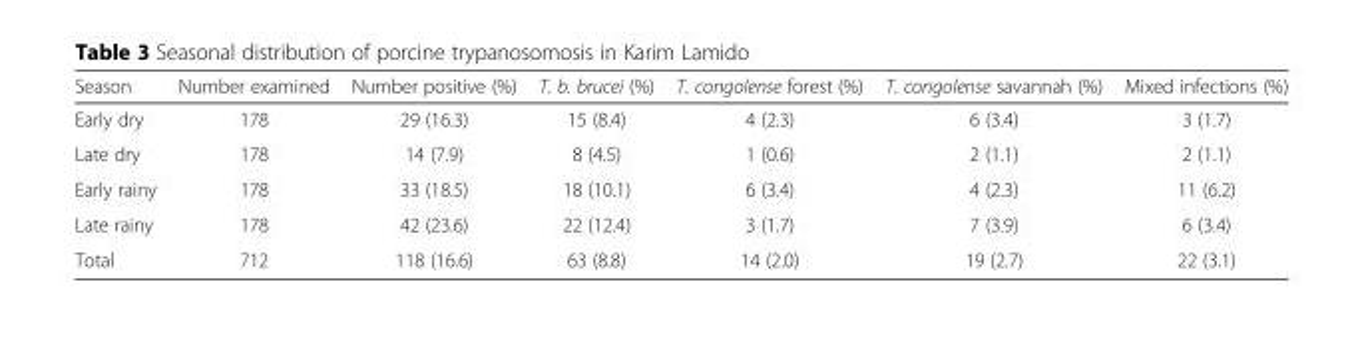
<table><thead><tr><td>Season</td><td>Number examined</td><td>Number positive (%)</td><td>T. b. brucei (%)</td><td>T. congolense forest (%)</td><td>T. congolense savannah (%)</td><td>Mixed infections (%)</td></tr></thead><tbody><tr><td>Early dry</td><td>178</td><td>29 (16.3)</td><td>15 (8.4)</td><td>4 (2.3)</td><td>6 (3.4)</td><td>3 (1.7)</td></tr><tr><td>Late dry</td><td>178</td><td>14 (7.9)</td><td>8 (4.5)</td><td>1 (0.6)</td><td>2 (1.1)</td><td>2 (1.1)</td></tr><tr><td>Early rainy</td><td>178</td><td>33 (18.5)</td><td>18 (10.1)</td><td>6 (3.4)</td><td>4 (2.3)</td><td>11 (6.2)</td></tr><tr><td>Late rainy</td><td>178</td><td>42 (23.6)</td><td>22 (12.4)</td><td>3 (1.7)</td><td>7 (3.9)</td><td>6 (3.4)</td></tr><tr><td>Total</td><td>712</td><td>118 (16.6)</td><td>63 (8.8)</td><td>14 (2.0)</td><td>19 (2.7)</td><td>22 (3.1)</td></tr></tbody></table>